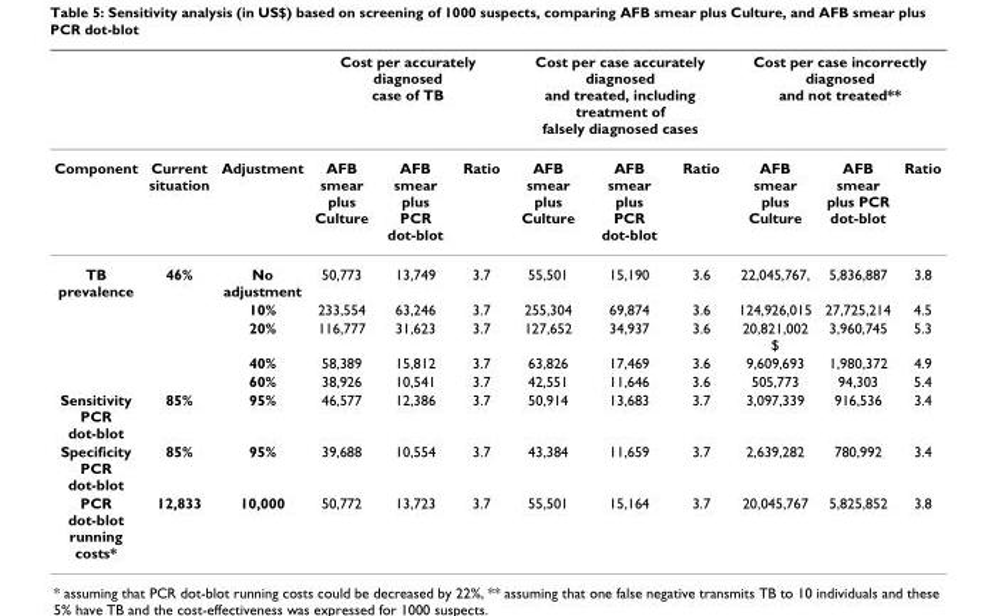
<table><thead><tr><td rowspan="2">Component</td><td rowspan="2">Current situation</td><td rowspan="2">Adjustment</td><td colspan="3">Cost per accurately diagnosed case of TB</td><td colspan="3">Cost per case accurately diagnosed and treated, including treatment of falsely diagnosed cases</td><td colspan="3">Cost per case incorrectly diagnosed and not treated**</td></tr><tr><td>AFB smear plus Culture</td><td>AFB smear plus PCR dot-blot</td><td>Ratio</td><td>AFB smear plus Culture</td><td>AFB smear plus PCR dot-blot</td><td>Ratio</td><td>AFB smear plus Culture</td><td>AFB smear plus PCR dot-blot</td><td>Ratio</td></tr></thead><tbody><tr><td rowspan="5">TB prevalence</td><td>46%</td><td>No adjustment</td><td>50,773</td><td>13,749</td><td>3.7</td><td>55,501</td><td>15,190</td><td>3.6</td><td>22,045,767,</td><td>5,836,887</td><td>3.8</td></tr><tr><td></td><td>10%</td><td>233,554</td><td>63,246</td><td>3.7</td><td>255,304</td><td>69,874</td><td>3.6</td><td>124,926,015</td><td>27,725,214</td><td>4.5</td></tr><tr><td></td><td>20%</td><td>116,777</td><td>31,623</td><td>3.7</td><td>127,652</td><td>34,937</td><td>3.6</td><td>20,821,002 $</td><td>3,960,745</td><td>5.3</td></tr><tr><td></td><td>40%</td><td>58,389</td><td>15,812</td><td>3.7</td><td>63,826</td><td>17,469</td><td>3.6</td><td>9,609,693</td><td>1,980,372</td><td>4.9</td></tr><tr><td></td><td>60%</td><td>38,926</td><td>10,541</td><td>3.7</td><td>42,551</td><td>11,646</td><td>3.6</td><td>505,773</td><td>94,303</td><td>5.4</td></tr><tr><td>Sensitivity PCR dot-blot</td><td>85%</td><td>95%</td><td>46,577</td><td>12,386</td><td>3.7</td><td>50,914</td><td>13,683</td><td>3.7</td><td>3,097,339</td><td>916,536</td><td>3.4</td></tr><tr><td>Specificity PCR dot-blot</td><td>85%</td><td>95%</td><td>39,688</td><td>10,554</td><td>3.7</td><td>43,384</td><td>11,659</td><td>3.7</td><td>2,639,282</td><td>780,992</td><td>3.4</td></tr><tr><td>PCR dot-blot running costs*</td><td>12,833</td><td>10,000</td><td>50,772</td><td>13,723</td><td>3.7</td><td>55,501</td><td>15,164</td><td>3.7</td><td>20,045,767</td><td>5,825,852</td><td>3.8</td></tr></tbody></table>